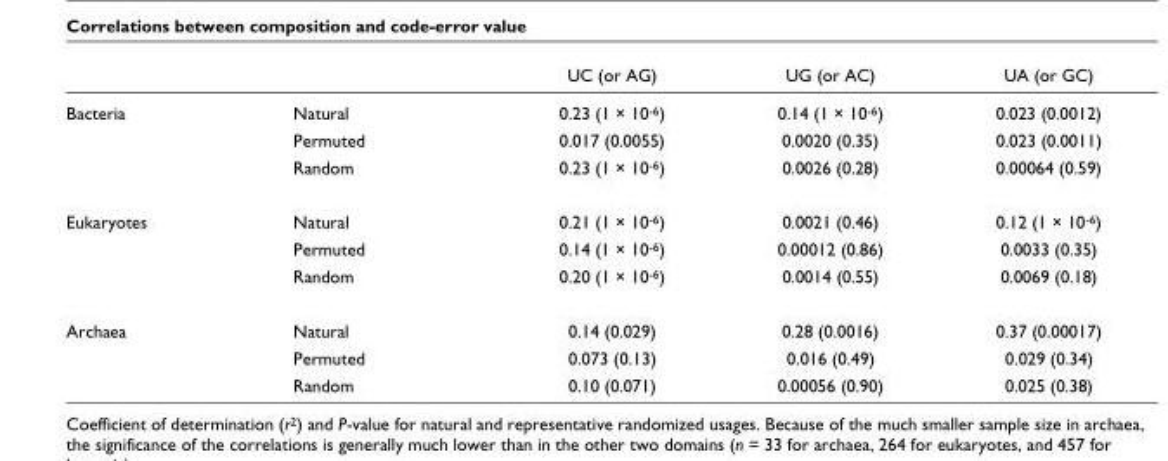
<table><thead><tr><td></td><td></td><td>UC (or AG)</td><td>UG (or AC)</td><td>UA (or GC)</td></tr></thead><tbody><tr><td rowspan="3">Bacteria</td><td>Natural</td><td>0.23 (1 × 10-6)</td><td>0.14 (1 × 10-6)</td><td>0.023 (0.0012)</td></tr><tr><td>Permuted</td><td>0.017 (0.0055)</td><td>0.0020 (0.35)</td><td>0.023 (0.0011)</td></tr><tr><td>Random</td><td>0.23 (1 × 10-6)</td><td>0.0026 (0.28)</td><td>0.00064 (0.59)</td></tr><tr><td rowspan="3">Eukaryotes</td><td>Natural</td><td>0.21 (1 × 10-6)</td><td>0.0021 (0.46)</td><td>0.12 (1 × 10-6)</td></tr><tr><td>Permuted</td><td>0.14 (1 × 10-6)</td><td>0.00012 (0.86)</td><td>0.0033 (0.35)</td></tr><tr><td>Random</td><td>0.20 (1 × 10-6)</td><td>0.0014 (0.55)</td><td>0.0069 (0.18)</td></tr><tr><td rowspan="3">Archaea</td><td>Natural</td><td>0.14 (0.029)</td><td>0.28 (0.0016)</td><td>0.37 (0.00017)</td></tr><tr><td>Permuted</td><td>0.073 (0.13)</td><td>0.016 (0.49)</td><td>0.029 (0.34)</td></tr><tr><td>Random</td><td>0.10 (0.071)</td><td>0.00056 (0.90)</td><td>0.025 (0.38)</td></tr></tbody></table>